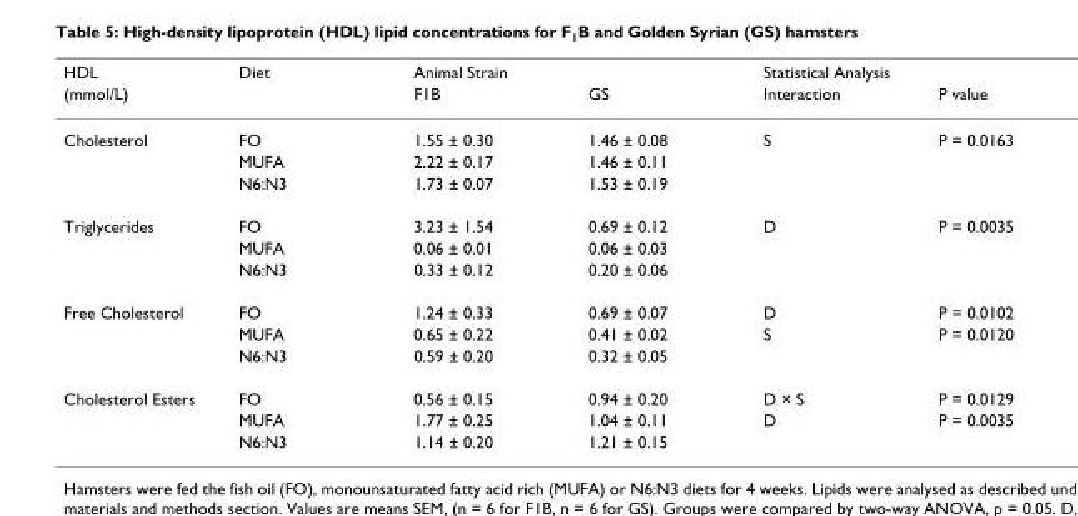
<table><thead><tr><td rowspan="2">HDL (mmol/L)</td><td rowspan="2">Diet</td><td colspan="2">Animal Strain</td><td colspan="2">Statistical Analysis</td></tr><tr><td>F1B</td><td>GS</td><td>Interaction</td><td>P value</td></tr></thead><tbody><tr><td rowspan="3">Cholesterol</td><td>FO</td><td>1.55 ± 0.30</td><td>1.46 ± 0.08</td><td>S</td><td>P = 0.0163</td></tr><tr><td>MUFA</td><td>2.22 ± 0.17</td><td>1.46 ± 0.11</td><td></td><td></td></tr><tr><td>N6:N3</td><td>1.73 ± 0.07</td><td>1.53 ± 0.19</td><td></td><td></td></tr><tr><td rowspan="3">Triglycerides</td><td>FO</td><td>3.23 ± 1.54</td><td>0.69 ± 0.12</td><td>D</td><td>P = 0.0035</td></tr><tr><td>MUFA</td><td>0.06 ± 0.01</td><td>0.06 ± 0.03</td><td></td><td></td></tr><tr><td>N6:N3</td><td>0.33 ± 0.12</td><td>0.20 ± 0.06</td><td></td><td></td></tr><tr><td rowspan="3">Free Cholesterol</td><td>FO</td><td>1.24 ± 0.33</td><td>0.69 ± 0.07</td><td>D</td><td>P = 0.0102</td></tr><tr><td>MUFA</td><td>0.65 ± 0.22</td><td>0.41 ± 0.02</td><td>S</td><td>P = 0.0120</td></tr><tr><td>N6:N3</td><td>0.59 ± 0.20</td><td>0.32 ± 0.05</td><td></td><td></td></tr><tr><td rowspan="3">Cholesterol Esters</td><td>FO</td><td>0.56 ± 0.15</td><td>0.94 ± 0.20</td><td>D × S</td><td>P = 0.0129</td></tr><tr><td>MUFA</td><td>1.77 ± 0.25</td><td>1.04 ± 0.11</td><td>D</td><td>P = 0.0035</td></tr><tr><td>N6:N3</td><td>1.14 ± 0.20</td><td>1.21 ± 0.15</td><td></td><td></td></tr></tbody></table>